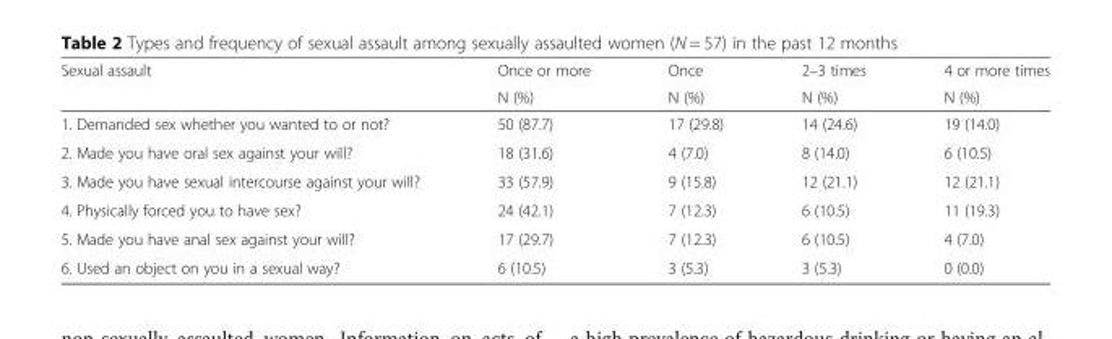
<table><thead><tr><td rowspan="2">Sexual assault</td><td rowspan="2">Once or more N (%)</td><td rowspan="2">Once N (%)</td><td rowspan="2">2–3 times N (%)</td><td rowspan="2">4 or more times N (%)</td></tr><tr></tr></thead><tbody><tr><td>1. Demanded sex whether you wanted to or not?</td><td>50 (87.7)</td><td>17 (29.8)</td><td>14 (24.6)</td><td>19 (14.0)</td></tr><tr><td>2. Made you have oral sex against your will?</td><td>18 (31.6)</td><td>4 (7.0)</td><td>8 (14.0)</td><td>6 (10.5)</td></tr><tr><td>3. Made you have sexual intercourse against your will?</td><td>33 (57.9)</td><td>9 (15.8)</td><td>12 (21.1)</td><td>12 (21.1)</td></tr><tr><td>4. Physically forced you to have sex?</td><td>24 (42.1)</td><td>7 (12.3)</td><td>6 (10.5)</td><td>11 (19.3)</td></tr><tr><td>5. Made you have anal sex against your will?</td><td>17 (29.7)</td><td>7 (12.3)</td><td>6 (10.5)</td><td>4 (7.0)</td></tr><tr><td>6. Used an object on you in a sexual way?</td><td>6 (10.5)</td><td>3 (5.3)</td><td>3 (5.3)</td><td>0 (0.0)</td></tr></tbody></table>